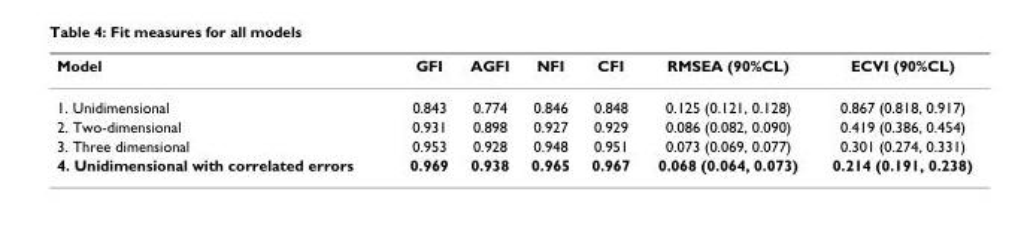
<table><thead><tr><td>Model</td><td>GFI</td><td>AGFI</td><td>NFI</td><td>CFI</td><td>RMSEA (90%CL)</td><td>ECVI (90%CL)</td></tr></thead><tbody><tr><td>1. Unidimensional</td><td>0.843</td><td>0.774</td><td>0.846</td><td>0.848</td><td>0.125 (0.121, 0.128)</td><td>0.867 (0.818, 0.917)</td></tr><tr><td>2. Two-dimensional</td><td>0.931</td><td>0.898</td><td>0.927</td><td>0.929</td><td>0.086 (0.082, 0.090)</td><td>0.419 (0.386, 0.454)</td></tr><tr><td>3. Three dimensional</td><td>0.953</td><td>0.928</td><td>0.948</td><td>0.951</td><td>0.073 (0.069, 0.077)</td><td>0.301 (0.274, 0.331)</td></tr><tr><td>4. Unidimensional with correlated errors</td><td>0.969</td><td>0.938</td><td>0.965</td><td>0.967</td><td>0.068 (0.064, 0.073)</td><td>0.214 (0.191, 0.238)</td></tr></tbody></table>